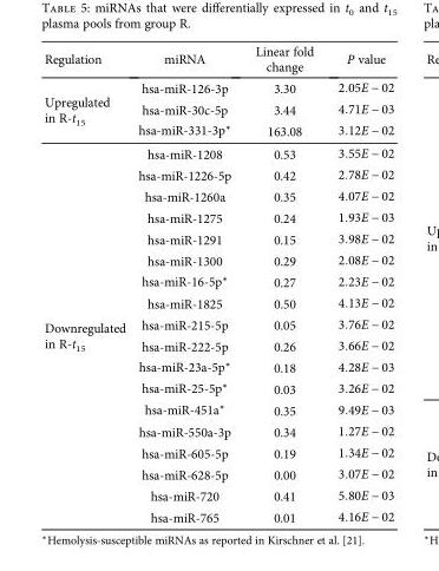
<table><thead><tr><td>Regulation</td><td>miRNA</td><td>Linear fold change</td><td>P value</td></tr></thead><tbody><tr><td rowspan="3">Upregulated in R-t15</td><td>hsa-miR-126-3p</td><td>3.30</td><td>2 05E − 02</td></tr><tr><td>hsa-miR-30c-5p</td><td>3.44</td><td>4 71E − 03</td></tr><tr><td>hsa-miR-331-3p∗</td><td>163.08</td><td>3 12E − 02</td></tr><tr><td rowspan="18">Downregulated in R-t<sub>15</sub></td><td>hsa-miR-1208</td><td>0.53</td><td>3 55E − 02</td></tr><tr><td>hsa-miR-1226-5p</td><td>0.42</td><td>2 78E − 02</td></tr><tr><td>hsa-miR-1260a</td><td>0.35</td><td>4 07E − 02</td></tr><tr><td>hsa-miR-1275</td><td>0.24</td><td>1 93E − 03</td></tr><tr><td>hsa-miR-1291</td><td>0.15</td><td>3 98E − 02</td></tr><tr><td>hsa-miR-1300</td><td>0.29</td><td>2 08E − 02</td></tr><tr><td>hsa-miR-16-5p∗</td><td>0.27</td><td>2 23E − 02</td></tr><tr><td>hsa-miR-1825</td><td>0.50</td><td>4 13E − 02</td></tr><tr><td>hsa-miR-215-5p</td><td>0.05</td><td>3 76E − 02</td></tr><tr><td>hsa-miR-222-5p</td><td>0.26</td><td>3 66E − 02</td></tr><tr><td>hsa-miR-23a-5p∗</td><td>0.18</td><td>4 28E − 03</td></tr><tr><td>hsa-miR-25-5p∗</td><td>0.03</td><td>3 26E − 02</td></tr><tr><td>hsa-miR-451a∗</td><td>0.35</td><td>9 49E − 03</td></tr><tr><td>hsa-miR-550a-3p</td><td>0.34</td><td>1 27E − 02</td></tr><tr><td>hsa-miR-605-5p</td><td>0.19</td><td>1 34E − 02</td></tr><tr><td>hsa-miR-628-5p</td><td>0.00</td><td>3 07E − 02</td></tr><tr><td>hsa-miR-720</td><td>0.41</td><td>5 80E − 03</td></tr><tr><td>hsa-miR-765</td><td>0.01</td><td>4 16E − 02</td></tr></tbody></table>